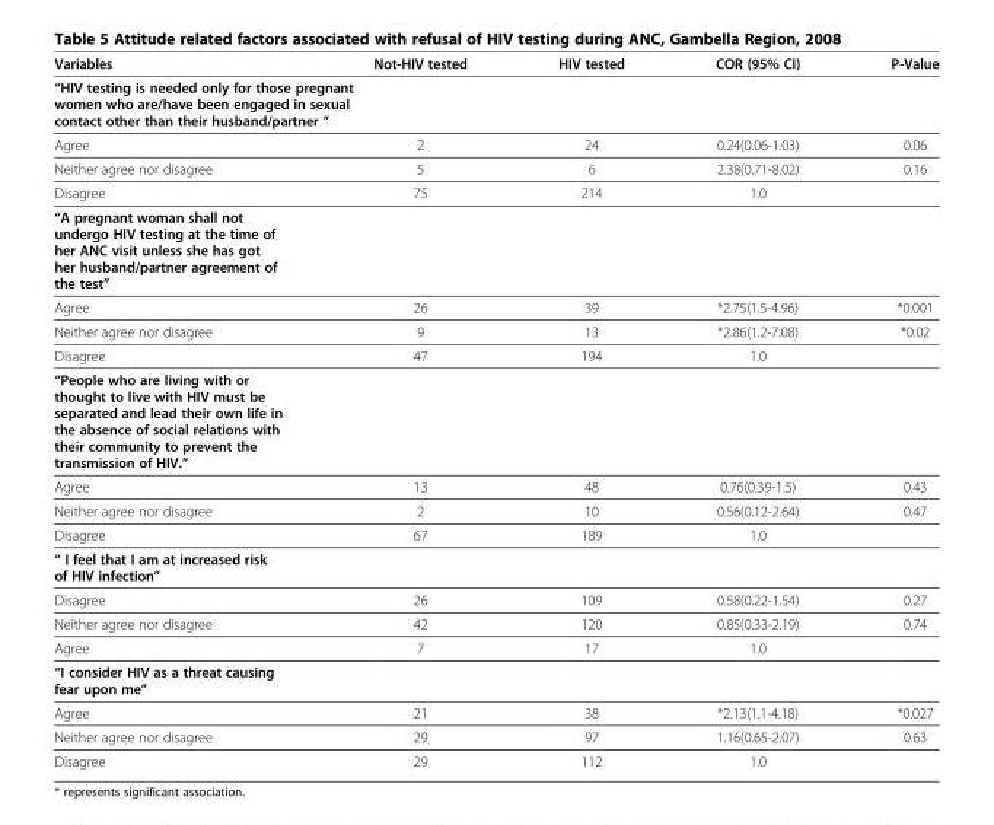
<table><thead><tr><td>Variables</td><td>Not-HIV tested</td><td>HIV tested</td><td>COR (95% CI)</td><td>P-Value</td></tr></thead><tbody><tr><td colspan="5">“HIV testing is needed only for those pregnant women who are/have been engaged in sexual contact other than their husband/partner ”</td></tr><tr><td>Agree</td><td>2</td><td>24</td><td>0.24(0.06-1.03)</td><td>0.06</td></tr><tr><td>Neither agree nor disagree</td><td>5</td><td>6</td><td>2.38(0.71-8.02)</td><td>0.16</td></tr><tr><td>Disagree</td><td>75</td><td>214</td><td>1.0</td><td></td></tr><tr><td colspan="5">“A pregnant woman shall not undergo HIV testing at the time of her ANC visit unless she has got her husband/partner agreement of the test”</td></tr><tr><td>Agree</td><td>26</td><td>39</td><td>*2.75(1.5-4.96)</td><td>*0.001</td></tr><tr><td>Neither agree nor disagree</td><td>9</td><td>13</td><td>*2.86(1.2-7.08)</td><td>*0.02</td></tr><tr><td>Disagree</td><td>47</td><td>194</td><td>1.0</td><td></td></tr><tr><td colspan="5">“People who are living with or thought to live with HIV must be separated and lead their own life in the absence of social relations with their community to prevent the transmission of HIV.”</td></tr><tr><td>Agree</td><td>13</td><td>48</td><td>0.76(0.39-1.5)</td><td>0.43</td></tr><tr><td>Neither agree nor disagree</td><td>2</td><td>10</td><td>0.56(0.12-2.64)</td><td>0.47</td></tr><tr><td>Disagree</td><td>67</td><td>189</td><td>1.0</td><td></td></tr><tr><td colspan="5">“ I feel that I am at increased risk of HIV infection”</td></tr><tr><td>Disagree</td><td>26</td><td>109</td><td>0.58(0.22-1.54)</td><td>0.27</td></tr><tr><td>Neither agree nor disagree</td><td>42</td><td>120</td><td>0.85(0.33-2.19)</td><td>0.74</td></tr><tr><td>Agree</td><td>7</td><td>17</td><td>1.0</td><td></td></tr><tr><td colspan="5">“I consider HIV as a threat causing fear upon me”</td></tr><tr><td>Agree</td><td>21</td><td>38</td><td>*2.13(1.1-4.18)</td><td>*0.027</td></tr><tr><td>Neither agree nor disagree</td><td>29</td><td>97</td><td>1.16(0.65-2.07)</td><td>0.63</td></tr><tr><td>Disagree</td><td>29</td><td>112</td><td>1.0</td><td></td></tr></tbody></table>